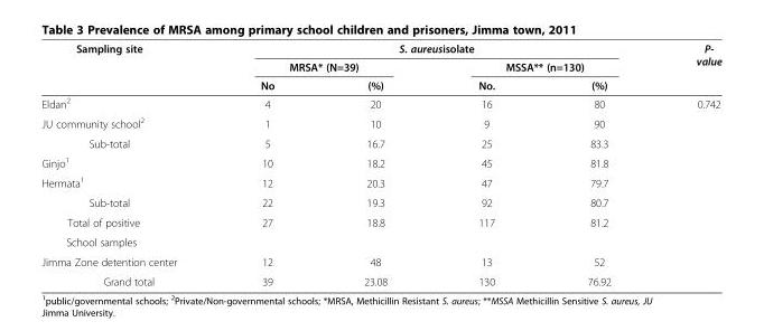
<table><thead><tr><td rowspan="3">Sampling site</td><td colspan="4">S. aureusisolate</td><td rowspan="3">P- value</td></tr><tr><td colspan="2">MRSA* (N=39)</td><td colspan="2">MSSA** (n=130)</td></tr><tr><td>No</td><td>(%)</td><td>No.</td><td>(%)</td></tr></thead><tbody><tr><td>Eldan<sup>2</sup></td><td>4</td><td>20</td><td>16</td><td>80</td><td rowspan="9">0.742</td></tr><tr><td>JU community school<sup>2</sup></td><td>1</td><td>10</td><td>9</td><td>90</td></tr><tr><td>Sub-total</td><td>5</td><td>16.7</td><td>25</td><td>83.3</td></tr><tr><td>Ginjo<sup>1</sup></td><td>10</td><td>18.2</td><td>45</td><td>81.8</td></tr><tr><td>Hermata<sup>1</sup></td><td>12</td><td>20.3</td><td>47</td><td>79.7</td></tr><tr><td>Sub-total</td><td>22</td><td>19.3</td><td>92</td><td>80.7</td></tr><tr><td>Total of positive</td><td rowspan="2">27</td><td rowspan="2">18.8</td><td rowspan="2">117</td><td rowspan="2">81.2</td></tr><tr><td>School samples</td></tr><tr><td>Jimma Zone detention center</td><td>12</td><td>48</td><td>13</td><td>52</td></tr><tr><td>Grand total</td><td>39</td><td>23.08</td><td>130</td><td>76.92</td><td></td></tr></tbody></table>